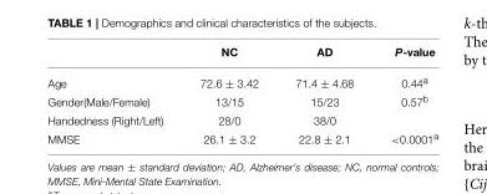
<table><thead><tr><td></td><td>NC</td><td>AD</td><td>P-value</td></tr></thead><tbody><tr><td>Age</td><td>72.6 ± 3.42</td><td>71.4 ± 4.68</td><td>0.44<sup>a</sup></td></tr><tr><td>Gender(Male/Female)</td><td>13/15</td><td>15/23</td><td>0.57<sup>b</sup></td></tr><tr><td>Handedness (Right/Left)</td><td>28/0</td><td>38/0</td><td></td></tr><tr><td>MMSE</td><td>26.1 ± 3.2</td><td>22.8 ± 2.1</td><td>&lt;0.0001<sup>a</sup></td></tr></tbody></table>